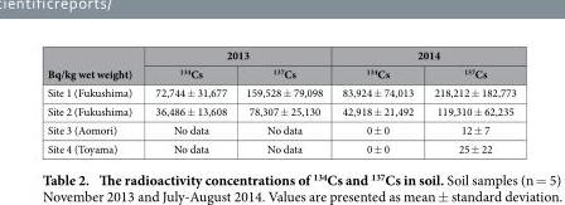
<table><thead><tr><td rowspan="2">Bq/kg wet weight)</td><td colspan="2">2013</td><td colspan="2">2014</td></tr><tr><td><sup>134</sup>Cs</td><td><sup>137</sup>Cs</td><td><sup>134</sup>Cs</td><td><sup>137</sup>Cs</td></tr></thead><tbody><tr><td>Site 1 (Fukushima)</td><td>72,744 ± 31,677</td><td>159,528 ± 79,098</td><td>83,924 ± 74,013</td><td>218,212 ± 182,773</td></tr><tr><td>Site 2 (Fukushima)</td><td>36,486 ± 13,608</td><td>78,307 ± 25,130</td><td>42,918 ± 21,492</td><td>119,310 ± 62,235</td></tr><tr><td>Site 3 (Aomori)</td><td>No data</td><td>No data</td><td>0 ± 0</td><td>12 ± 7</td></tr><tr><td>Site 4 (Toyama)</td><td>No data</td><td>No data</td><td>0 ± 0</td><td>25 ± 22</td></tr></tbody></table>